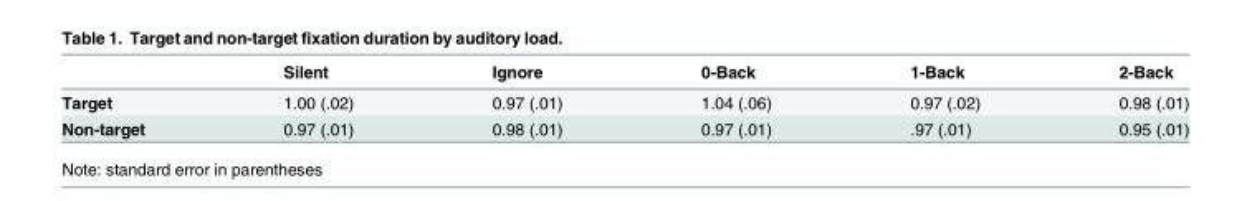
<table><thead><tr><td></td><td>Silent</td><td>Ignore</td><td>0-Back</td><td>1-Back</td><td>2-Back</td></tr></thead><tbody><tr><td>Target</td><td>1.00 (.02)</td><td>0.97 (.01)</td><td>1.04 (.06)</td><td>0.97 (.02)</td><td>0.98 (.01)</td></tr><tr><td>Non-target</td><td>0.97 (.01)</td><td>0.98 (.01)</td><td>0.97 (.01)</td><td>.97 (.01)</td><td>0.95 (.01)</td></tr></tbody></table>